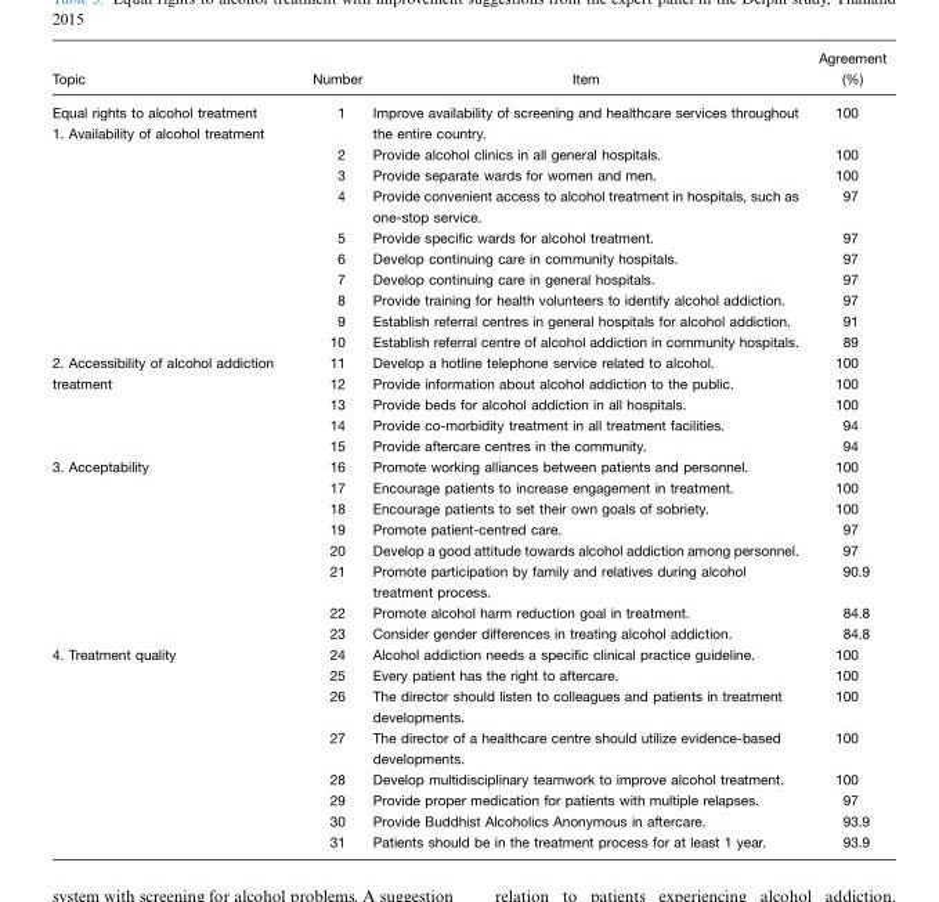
<table><thead><tr><td>Topic</td><td>Number</td><td>Item</td><td>Agreement (%)</td></tr></thead><tbody><tr><td rowspan="10">Equal rights to alcohol treatment 1. Availability of alcohol treatment</td><td>1</td><td>Improve availability of screening and healthcare services throughout the entire country.</td><td>100</td></tr><tr><td>2</td><td>Provide alcohol clinics in all general hospitals.</td><td>100</td></tr><tr><td>3</td><td>Provide separate wards for women and men.</td><td>100</td></tr><tr><td>4</td><td>Provide convenient access to alcohol treatment in hospitals, such as one-stop service.</td><td>97</td></tr><tr><td>5</td><td>Provide specific wards for alcohol treatment.</td><td>97</td></tr><tr><td>6</td><td>Develop continuing care in community hospitals.</td><td>97</td></tr><tr><td>7</td><td>Develop continuing care in general hospitals.</td><td>97</td></tr><tr><td>8</td><td>Provide training for health volunteers to identify alcohol addiction.</td><td>97</td></tr><tr><td>9</td><td>Establish referral centres in general hospitals for alcohol addiction.</td><td>91</td></tr><tr><td>10</td><td>Establish referral centre of alcohol addiction in community hospitals.</td><td>89</td></tr><tr><td rowspan="5">2. Accessibility of alcohol addiction treatment</td><td>11</td><td>Develop a hotline telephone service related to alcohol.</td><td>100</td></tr><tr><td>12</td><td>Provide information about alcohol addiction to the public.</td><td>100</td></tr><tr><td>13</td><td>Provide beds for alcohol addiction in all hospitals.</td><td>100</td></tr><tr><td>14</td><td>Provide co-morbidity treatment in all treatment facilities.</td><td>94</td></tr><tr><td>15</td><td>Provide aftercare centres in the community.</td><td>94</td></tr><tr><td rowspan="8">3. Acceptability</td><td>16</td><td>Promote working alliances between patients and personnel.</td><td>100</td></tr><tr><td>17</td><td>Encourage patients to increase engagement in treatment.</td><td>100</td></tr><tr><td>18</td><td>Encourage patients to set their own goals of sobriety.</td><td>100</td></tr><tr><td>19</td><td>Promote patient-centred care.</td><td>97</td></tr><tr><td>20</td><td>Develop a good attitude towards alcohol addiction among personnel.</td><td>97</td></tr><tr><td>21</td><td>Promote participation by family and relatives during alcohol treatment process.</td><td>90.9</td></tr><tr><td>22</td><td>Promote alcohol harm reduction goal in treatment.</td><td>84.8</td></tr><tr><td>23</td><td>Consider gender differences in treating alcohol addiction.</td><td>84.8</td></tr><tr><td rowspan="8">4. Treatment quality</td><td>24</td><td>Alcohol addiction needs a specific clinical practice guideline.</td><td>100</td></tr><tr><td>25</td><td>Every patient has the right to aftercare.</td><td>100</td></tr><tr><td>26</td><td>The director should listen to colleagues and patients in treatment developments.</td><td>100</td></tr><tr><td>27</td><td>The director of a healthcare centre should utilize evidence-based developments.</td><td>100</td></tr><tr><td>28</td><td>Develop multidisciplinary teamwork to improve alcohol treatment.</td><td>100</td></tr><tr><td>29</td><td>Provide proper medication for patients with multiple relapses.</td><td>97</td></tr><tr><td>30</td><td>Provide Buddhist Alcoholics Anonymous in aftercare.</td><td>93.9</td></tr><tr><td>31</td><td>Patients should be in the treatment process for at least 1 year.</td><td>93.9</td></tr></tbody></table>